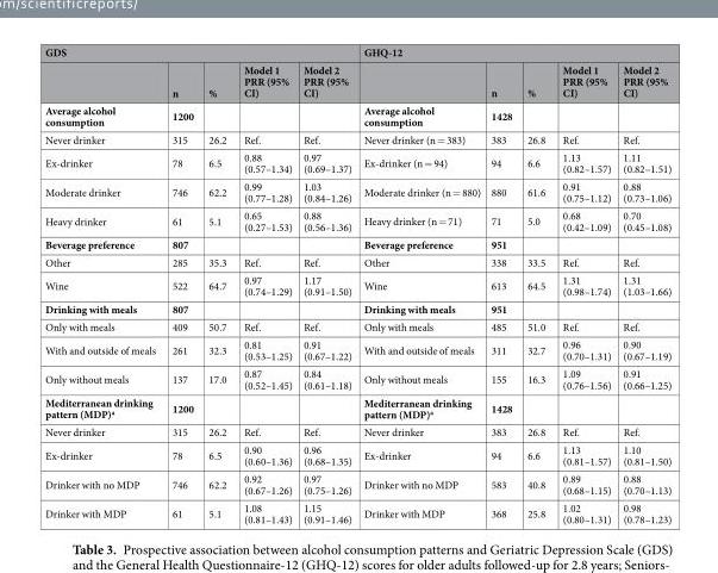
<table><thead><tr><td colspan="5">GDS</td><td colspan="5">GHQ-12</td></tr><tr><td></td><td>n</td><td>%</td><td>Model 1 PRR (95% CI)</td><td>Model 2 PRR (95% CI)</td><td></td><td>n</td><td>%</td><td>Model 1 PRR (95% CI)</td><td>Model 2 PRR (95% CI)</td></tr></thead><tbody><tr><td>Average alcohol consumption</td><td>1200</td><td></td><td></td><td></td><td>Average alcohol consumption</td><td>1428</td><td></td><td></td><td></td></tr><tr><td>Never drinker</td><td>315</td><td>26.2</td><td>Ref.</td><td>Ref.</td><td>Never drinker (n = 383)</td><td>383</td><td>26.8</td><td>Ref.</td><td>Ref.</td></tr><tr><td>Ex-drinker</td><td>78</td><td>6.5</td><td>0.88 (0.57–1.34)</td><td>0.97 (0.69–1.37)</td><td>Ex-drinker (n = 94)</td><td>94</td><td>6.6</td><td>1.13 (0.82–1.57)</td><td>1.11 (0.82–1.51)</td></tr><tr><td>Moderate drinker</td><td>746</td><td>62.2</td><td>0.99 (0.77–1.28)</td><td>1.03 (0.84–1.26)</td><td>Moderate drinker (n = 880)</td><td>880</td><td>61.6</td><td>0.91 (0.75–1.12)</td><td>0.88 (0.73–1.06)</td></tr><tr><td>Heavy drinker</td><td>61</td><td>5.1</td><td>0.65 (0.27–1.53)</td><td>0.88 (0.56–1.36)</td><td>Heavy drinker (n = 71)</td><td>71</td><td>5.0</td><td>0.68 (0.42–1.09)</td><td>0.70 (0.45–1.08)</td></tr><tr><td>Beverage preference</td><td>807</td><td></td><td></td><td></td><td>Beverage preference</td><td>951</td><td></td><td></td><td></td></tr><tr><td>Other</td><td>285</td><td>35.3</td><td>Ref.</td><td>Ref.</td><td>Other</td><td>338</td><td>33.5</td><td>Ref.</td><td>Ref.</td></tr><tr><td>Wine</td><td>522</td><td>64.7</td><td>0.97 (0.74–1.29)</td><td>1.17 (0.91–1.50)</td><td>Wine</td><td>613</td><td>64.5</td><td>1.31 (0.98–1.74)</td><td>1.31 (1.03–1.66)</td></tr><tr><td>Drinking with meals</td><td>807</td><td></td><td></td><td></td><td>Drinking with meals</td><td>951</td><td></td><td></td><td></td></tr><tr><td>Only with meals</td><td>409</td><td>50.7</td><td>Ref.</td><td>Ref.</td><td>Only with meals</td><td>485</td><td>51.0</td><td>Ref.</td><td>Ref.</td></tr><tr><td>With and outside of meals</td><td>261</td><td>32.3</td><td>0.81 (0.53–1.25)</td><td>0.91 (0.67–1.22)</td><td>With and outside of meals</td><td>311</td><td>32.7</td><td>0.96 (0.70–1.31)</td><td>0.90 (0.67–1.19)</td></tr><tr><td>Only without meals</td><td>137</td><td>17.0</td><td>0.87 (0.52–1.45)</td><td>0.84 (0.61–1.18)</td><td>Only without meals</td><td>155</td><td>16.3</td><td>1.09 (0.76–1.56)</td><td>0.91 (0.66–1.25)</td></tr><tr><td>Mediterranean drinking pattern (MDP)<sup>a</sup></td><td>1200</td><td></td><td></td><td></td><td>Mediterranean drinking pattern (MDP)<sup>a</sup></td><td>1428</td><td></td><td></td><td></td></tr><tr><td>Never drinker</td><td>315</td><td>26.2</td><td>Ref.</td><td>Ref.</td><td>Never drinker</td><td>383</td><td>26.8</td><td>Ref.</td><td>Ref.</td></tr><tr><td>Ex-drinker</td><td>78</td><td>6.5</td><td>0.90 (0.60–1.36)</td><td>0.96 (0.68–1.35)</td><td>Ex-drinker</td><td>94</td><td>6.6</td><td>1.13 (0.81–1.57)</td><td>1.10 (0.81–1.50)</td></tr><tr><td>Drinker with no MDP</td><td>746</td><td>62.2</td><td>0.92 (0.67–1.26)</td><td>0.97 (0.75–1.26)</td><td>Drinker with no MDP</td><td>583</td><td>40.8</td><td>0.89 (0.68–1.15)</td><td>0.88 (0.70–1.13)</td></tr><tr><td>Drinker with MDP</td><td>61</td><td>5.1</td><td>1.08 (0.81–1.43)</td><td>1.15 (0.91–1.46)</td><td>Drinker with MDP</td><td>368</td><td>25.8</td><td>1.02 (0.80–1.31)</td><td>0.98 (0.78–1.23)</td></tr></tbody></table>